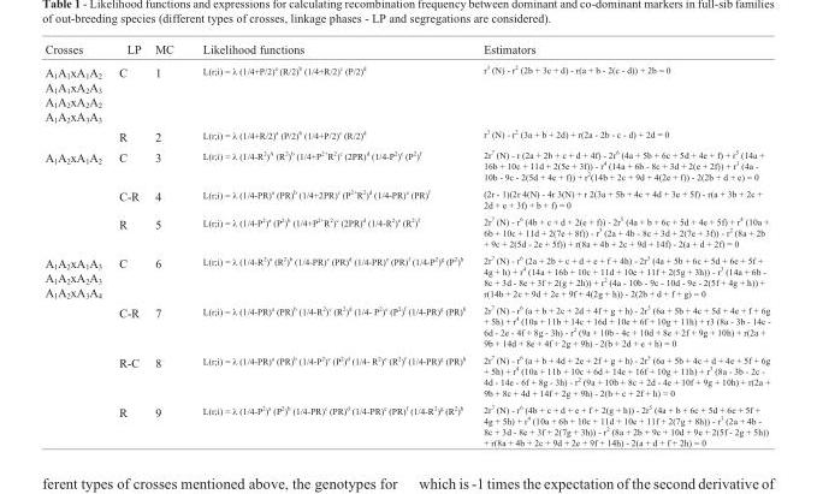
<table><thead><tr><td>Crosses</td><td>LP</td><td>MC</td><td>Likelihood functions</td><td>Estimators</td></tr></thead><tbody><tr><td rowspan="2">A<sub>1</sub>A<sub>1</sub>xA<sub>1</sub>A<sub>2</sub> A<sub>1</sub>A<sub>1</sub>xA<sub>2</sub>A<sub>3</sub> A<sub>1</sub>A<sub>2</sub>xA<sub>2</sub>A<sub>2</sub> A<sub>1</sub>A<sub>2</sub>xA<sub>3</sub>A<sub>3</sub></td><td>C</td><td>1</td><td>L(r;i) = λ (1/4+P/2)<sup>a</sup> (R/2)<sup>b</sup> (1/4+R/2)<sup>c</sup> (P/2)<sup>d</sup></td><td>r<sup>3</sup> (N) - r<sup>2</sup> (2b + 3c + d) - r(a + b - 2(c - d)) + 2b = 0</td></tr><tr><td>R</td><td>2</td><td>L(r;i) = λ (1/4+R/2)<sup>a</sup> (P/2)<sup>b</sup> (1/4+P/2)<sup>c</sup> (R/2)<sup>d</sup></td><td>r<sup>3</sup> (N) - r<sup>2</sup> (3a + b + 2d) + r(2a - 2b - c - d) + 2d = 0</td></tr><tr><td rowspan="3">A<sub>1</sub>A<sub>2</sub>xA<sub>1</sub>A<sub>2</sub></td><td>C</td><td>3</td><td>L(r;i) = λ (1/4-R<sup>2</sup>)<sup>A</sup> (R<sup>2</sup>)<sup>b</sup> (1/4+P<sup>2+</sup>R<sup>2</sup>)<sup>c</sup> (2PR)<sup>d</sup> (1/4-P<sup>2</sup>)<sup>e</sup> (P<sup>2</sup>)<sup>f</sup></td><td>2r<sup>7</sup> (N) - r (2a + 2b + c + d + 4f) - 2r<sup>6</sup> (4a + 5b + 6c + 5d + 4e + f) + r<sup>5</sup> (14a + 16b + 10c + 11d + 2(5e + 3f)) - r<sup>4</sup> (14a + 6b - 8c + 3d + 2(e + 2f)) + r<sup>3</sup> (4a - 10b - 9c - 2(5d + 4e + f)) + r<sup>2</sup>(14b + 2c + 9d + 4(2e + f)) - 2(2b + d + e) = 0</td></tr><tr><td>C-R</td><td>4</td><td>L(r;i) = λ (1/4-PR)<sup>a</sup> (PR)<sup>b</sup> (1/4+2PR)<sup>c</sup> (P<sup>2+</sup>R<sup>2</sup>)<sup>d</sup> (1/4-PR)<sup>e</sup> (PR)<sup>f</sup></td><td>(2r - 1)(2r 4(N) - 4r 3(N) + r 2(3a + 5b + 4c + 4d + 3e + 5f) - r(a + 3b + 2c + 2d + e + 3f) + b + f) = 0</td></tr><tr><td>R</td><td>5</td><td>L(r;i) = λ (1/4-P<sup>2</sup>)<sup>a</sup> (P<sup>2</sup>)<sup>b</sup> (1/4+P<sup>2+</sup>R<sup>2</sup>)<sup>c</sup> (2PR)<sup>d</sup> (1/4-R<sup>2</sup>)<sup>e</sup> (R<sup>2</sup>)<sup>f</sup></td><td>2r<sup>7</sup> (N) - r<sup>6</sup> (4b + c + d + 2(e + f)) - 2r<sup>5</sup> (4a + b + 6c + 5d + 4e + 5f) + r<sup>4</sup> (10a + 6b + 10c + 11d + 2(7e + 8f)) - r<sup>3</sup> (2a + 4b - 8c + 3d + 2(7e + 3f)) - r<sup>2</sup> (8a + 2b + 9c + 2(5d - 2e + 5f)) + r(8a + 4b + 2c + 9d + 14f) - 2(a + d + 2f) = 0</td></tr><tr><td rowspan="4">A<sub>1</sub>A<sub>2</sub>xA<sub>1</sub>A<sub>3</sub> A<sub>1</sub>A<sub>2</sub>xA<sub>2</sub>A<sub>3</sub> A<sub>1</sub>A<sub>2</sub>xA<sub>3</sub>A<sub>4</sub></td><td>C</td><td>6</td><td>L(r;i) = λ (1/4-R<sup>2</sup>)<sup>a</sup> (R<sup>2</sup>)<sup>b</sup> (1/4-PR)<sup>c</sup> (PR)<sup>d</sup> (1/4-PR)<sup>e</sup> (PR)<sup>f</sup> (1/4-P<sup>2</sup>)<sup>g</sup> (P<sup>2</sup>)<sup>h</sup></td><td>2r<sup>7</sup> (N) - r<sup>6</sup> (2a + 2b + c + d + e + f + 4h) - 2r<sup>5</sup> (4a + 5b + 6c + 5d + 6e + 5f + 4g + h) + r<sup>4</sup> (14a + 16b + 10c + 11d + 10e + 11f + 2(5g + 3h)) - r<sup>3</sup> (14a + 6b - 8c + 3d - 8e + 3f + 2(g + 2h)) + r<sup>2</sup> (4a - 10b - 9c - 10d - 9e - 2(5f + 4g + h)) + r(14b + 2c + 9d + 2e + 9f + 4(2g + h)) - 2(2b + d + f + g) = 0</td></tr><tr><td>C-R</td><td>7</td><td>L(r;i) = λ (1/4-PR)<sup>a</sup> (PR)<sup>b</sup> (1/4-R<sup>2</sup>)<sup>c</sup> (R<sup>2</sup>)<sup>d</sup> (1/4- P<sup>2</sup>)<sup>e</sup> (P<sup>2</sup>)<sup>f</sup> (1/4-PR)<sup>g</sup> (PR)<sup>h</sup></td><td>2r<sup>7</sup> (N) - r<sup>6</sup> (a + b + 2c + 2d + 4f + g + h) - 2r<sup>5</sup> (6a + 5b + 4c + 5d + 4e + f + 6g + 5h) + r<sup>4</sup> (10a + 11b + 14c + 16d + 10e + 6f + 10g + 11h) + r3 (8a - 3b - 14c - 6d - 2e - 4f + 8g - 3h) - r<sup>2</sup> (9a + 10b - 4c + 10d + 8e + 2f + 9g + 10h) + r(2a + 9b + 14d + 8e + 4f + 2g + 9h) - 2(b + 2d + e + h) = 0</td></tr><tr><td>R-C</td><td>8</td><td>L(r;i) = λ (1/4-PR)<sup>a</sup> (PR)<sup>b</sup> (1/4-P<sup>2</sup>)<sup>c</sup> (P<sup>2</sup>)<sup>d</sup> (1/4- R<sup>2</sup>)<sup>e</sup> (R<sup>2</sup>)<sup>f</sup> (1/4-PR)<sup>g</sup> (PR)<sup>h</sup></td><td>2r<sup>7</sup> (N) - r<sup>6</sup> (a + b + 4d + 2e + 2f + g + h) - 2r<sup>5</sup> (6a + 5b + 4c + d + 4e + 5f + 6g + 5h) + r<sup>4</sup> (10a + 11b + 10c + 6d + 14e + 16f + 10g + 11h) + r<sup>3</sup> (8a - 3b - 2c - 4d - 14e - 6f + 8g - 3h) - r<sup>2</sup> (9a + 10b + 8c + 2d - 4e + 10f + 9g + 10h) + r(2a + 9b + 8c + 4d + 14f + 2g + 9h) - 2(b + c + 2f + h) = 0</td></tr><tr><td>R</td><td>9</td><td>L(r;i) = λ (1/4-P<sup>2</sup>)<sup>a</sup> (P<sup>2</sup>)<sup>b</sup> (1/4-PR)<sup>c</sup> (PR)<sup>d</sup> (1/4-PR)<sup>e</sup> (PR)<sup>f</sup> (1/4-R<sup>2</sup>)<sup>g</sup> (R<sup>2</sup>)<sup>h</sup></td><td>2r<sup>7</sup> (N) - r<sup>6</sup> (4b + c + d + e + f + 2(g + h)) - 2r<sup>5</sup> (4a + b + 6c + 5d + 6e + 5f + 4g + 5h) + r<sup>4</sup> (10a + 6b + 10c + 11d + 10e + 11f + 2(7g + 8h)) - r<sup>3</sup> (2a + 4b - 8c + 3d - 8e + 3f + 2(7g + 3h)) - r<sup>2</sup> (8a + 2b + 9c + 10d + 9e + 2(5f - 2g + 5h)) + r(8a + 4b + 2c + 9d + 2e + 9f + 14h) - 2(a + d + f + 2h) = 0</td></tr></tbody></table>